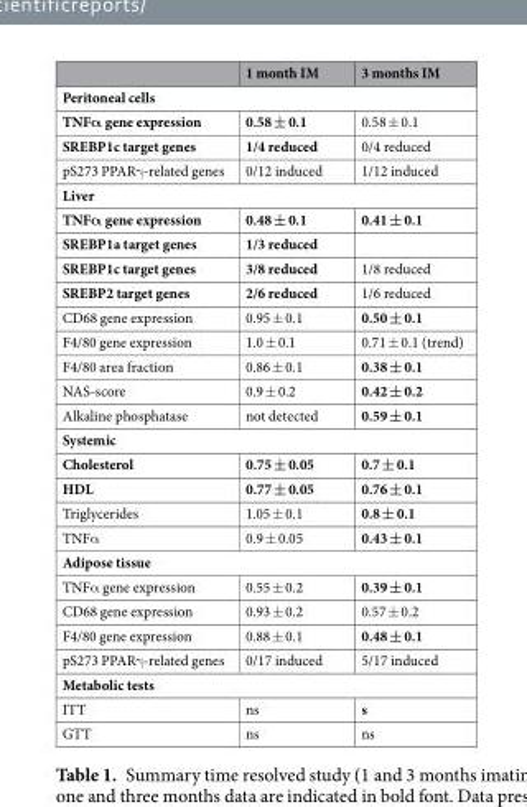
<table><thead><tr><td></td><td>1 month IM</td><td>3 months IM</td></tr></thead><tbody><tr><td colspan="3">Peritoneal cells</td></tr><tr><td>TNFα gene expression</td><td>0.58 ± 0.1</td><td>0.58 ± 0.1</td></tr><tr><td>SREBP1c target genes</td><td>1/4 reduced</td><td>0/4 reduced</td></tr><tr><td>pS273 PPARγ-related genes</td><td>0/12 induced</td><td>1/12 induced</td></tr><tr><td colspan="3">Liver</td></tr><tr><td>TNFα gene expression</td><td>0.48 ± 0.1</td><td>0.41 ± 0.1</td></tr><tr><td>SREBP1a target genes</td><td>1/3 reduced</td><td></td></tr><tr><td>SREBP1c target genes</td><td>3/8 reduced</td><td>1/8 reduced</td></tr><tr><td>SREBP2 target genes</td><td>2/6 reduced</td><td>1/6 reduced</td></tr><tr><td>CD68 gene expression</td><td>0.95 ± 0.1</td><td>0.50 ± 0.1</td></tr><tr><td>F4/80 gene expression</td><td>1.0 ± 0.1</td><td>0.71 ± 0.1 (trend)</td></tr><tr><td>F4/80 area fraction</td><td>0.86 ± 0.1</td><td>0.38 ± 0.1</td></tr><tr><td>NAS-score</td><td>0.9 ± 0.2</td><td>0.42 ± 0.2</td></tr><tr><td>Alkaline phosphatase</td><td>not detected</td><td>0.59 ± 0.1</td></tr><tr><td colspan="3">Systemic</td></tr><tr><td>Cholesterol</td><td>0.75 ± 0.05</td><td>0.7 ± 0.1</td></tr><tr><td>HDL</td><td>0.77 ± 0.05</td><td>0.76 ± 0.1</td></tr><tr><td>Triglycerides</td><td>1.05 ± 0.1</td><td>0.8 ± 0.1</td></tr><tr><td>TNFα</td><td>0.9 ± 0.05</td><td>0.43 ± 0.1</td></tr><tr><td colspan="3">Adipose tissue</td></tr><tr><td>TNFα gene expression</td><td>0.55 ± 0.2</td><td>0.39 ± 0.1</td></tr><tr><td>CD68 gene expression</td><td>0.93 ± 0.2</td><td>0.57 ± 0.2</td></tr><tr><td>F4/80 gene expression</td><td>0.88 ± 0.1</td><td>0.48 ± 0.1</td></tr><tr><td>pS273 PPARγ-related genes</td><td>0/17 induced</td><td>5/17 induced</td></tr><tr><td colspan="3">Metabolic tests</td></tr><tr><td>ITT</td><td>ns</td><td>s</td></tr><tr><td>GTT</td><td>ns</td><td>ns</td></tr></tbody></table>